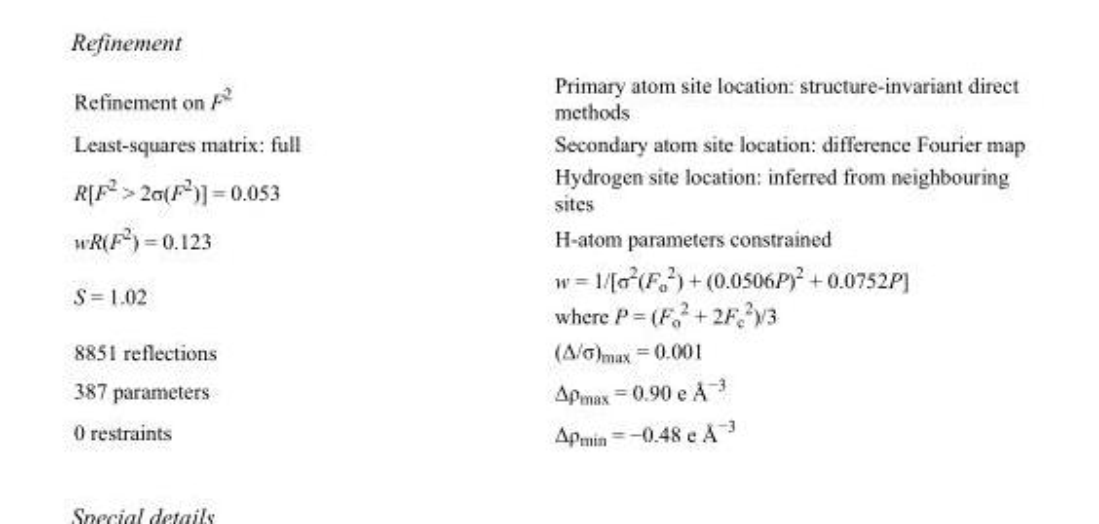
<table><tbody><tr><td>Refinement on F<sup>2</sup></td><td>Primary atom site location: structure-invariant direct methods</td></tr><tr><td>Least-squares matrix: full</td><td>Secondary atom site location: difference Fourier map</td></tr><tr><td>R[F<sup>2</sup> &gt; 2σ(F<sup>2</sup>)] = 0.053</td><td>Hydrogen site location: inferred from neighbouring sites</td></tr><tr><td>wR(F<sup>2</sup>) = 0.123</td><td>H-atom parameters constrained</td></tr><tr><td>S = 1.02</td><td>w = 1/[σ<sup>2</sup>(F<sub>o</sub> <sup>2</sup>) + (0.0506P)<sup>2</sup> + 0.0752P] where P = (F<sub>o</sub> <sup>2</sup> + 2F<sub>c</sub> <sup>2</sup>)/3</td></tr><tr><td>8851 reflections</td><td>(Δ/σ)<sub>max</sub> = 0.001</td></tr><tr><td>387 parameters</td><td>Δρ<sub>max</sub> = 0.90 e Å<sup>−3</sup></td></tr><tr><td>0 restraints</td><td>Δρ<sub>min</sub> = −0.48 e Å<sup>−3</sup></td></tr></tbody></table>